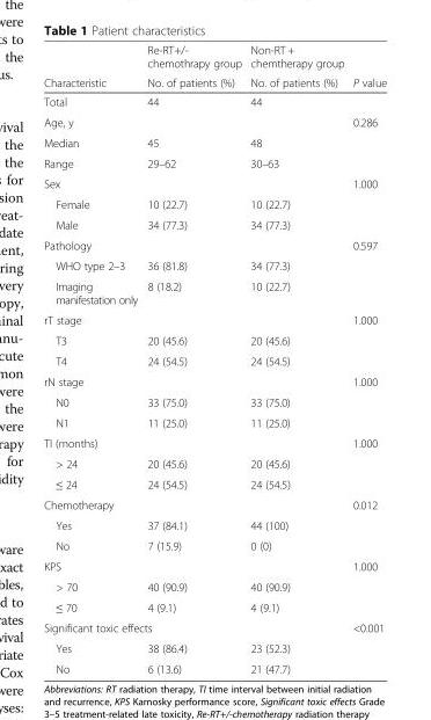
<table><thead><tr><td rowspan="2">Characteristic</td><td rowspan="2">Re-RT+/- chemothrapy group No. of patients (%)</td><td rowspan="2">Non-RT + chemtherapy group No. of patients (%)</td><td rowspan="2">P value</td></tr><tr></tr></thead><tbody><tr><td>Total</td><td>44</td><td>44</td><td></td></tr><tr><td>Age, y</td><td></td><td></td><td>0.286</td></tr><tr><td>Median</td><td>45</td><td>48</td><td></td></tr><tr><td>Range</td><td>29–62</td><td>30–63</td><td></td></tr><tr><td>Sex</td><td></td><td></td><td>1.000</td></tr><tr><td>Female</td><td>10 (22.7)</td><td>10 (22.7)</td><td></td></tr><tr><td>Male</td><td>34 (77.3)</td><td>34 (77.3)</td><td></td></tr><tr><td>Pathology</td><td></td><td></td><td>0.597</td></tr><tr><td>WHO type 2–3</td><td>36 (81.8)</td><td>34 (77.3)</td><td></td></tr><tr><td>Imaging manifestation only</td><td>8 (18.2)</td><td>10 (22.7)</td><td></td></tr><tr><td>rT stage</td><td></td><td></td><td>1.000</td></tr><tr><td>T3</td><td>20 (45.6)</td><td>20 (45.6)</td><td></td></tr><tr><td>T4</td><td>24 (54.5)</td><td>24 (54.5)</td><td></td></tr><tr><td>rN stage</td><td></td><td></td><td>1.000</td></tr><tr><td>N0</td><td>33 (75.0)</td><td>33 (75.0)</td><td></td></tr><tr><td>N1</td><td>11 (25.0)</td><td>11 (25.0)</td><td></td></tr><tr><td>TI (months)</td><td></td><td></td><td>1.000</td></tr><tr><td>&gt; 24</td><td>20 (45.6)</td><td>20 (45.6)</td><td></td></tr><tr><td>≤ 24</td><td>24 (54.5)</td><td>24 (54.5)</td><td></td></tr><tr><td>Chemotherapy</td><td></td><td></td><td>0.012</td></tr><tr><td>Yes</td><td>37 (84.1)</td><td>44 (100)</td><td></td></tr><tr><td>No</td><td>7 (15.9)</td><td>0 (0)</td><td></td></tr><tr><td>KPS</td><td></td><td></td><td>1.000</td></tr><tr><td>&gt; 70</td><td>40 (90.9)</td><td>40 (90.9)</td><td></td></tr><tr><td>≤ 70</td><td>4 (9.1)</td><td>4 (9.1)</td><td></td></tr><tr><td colspan="2">Significant toxic effects</td><td></td><td>&lt;0.001</td></tr><tr><td>Yes</td><td>38 (86.4)</td><td>23 (52.3)</td><td></td></tr><tr><td>No</td><td>6 (13.6)</td><td>21 (47.7)</td><td></td></tr></tbody></table>